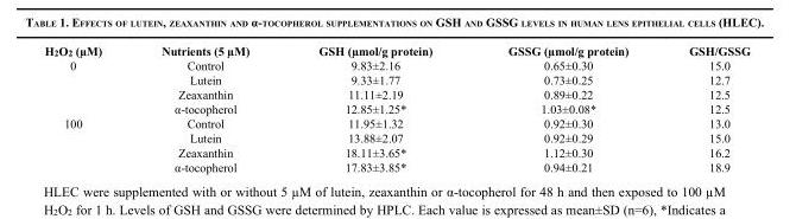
<table><thead><tr><td>H<sub>2</sub>O<sub>2</sub> (µM)</td><td>Nutrients (5 µM)</td><td>GSH (µmol/g protein)</td><td>GSSG (µmol/g protein)</td><td>GSH/GSSG</td></tr></thead><tbody><tr><td rowspan="4">0</td><td>Control</td><td>9.83±2.16</td><td>0.65±0.30</td><td>15.0</td></tr><tr><td>Lutein</td><td>9.33±1.77</td><td>0.73±0.25</td><td>12.7</td></tr><tr><td>Zeaxanthin</td><td>11.11±2.19</td><td>0.89±0.22</td><td>12.5</td></tr><tr><td>α-tocopherol</td><td>12.85±1.25*</td><td>1.03±0.08*</td><td>12.5</td></tr><tr><td rowspan="4">100</td><td>Control</td><td>11.95±1.32</td><td>0.92±0.30</td><td>13.0</td></tr><tr><td>Lutein</td><td>13.88±2.07</td><td>0.92±0.29</td><td>15.0</td></tr><tr><td>Zeaxanthin</td><td>18.11±3.65*</td><td>1.12±0.30</td><td>16.2</td></tr><tr><td>α-tocopherol</td><td>17.83±3.85*</td><td>0.94±0.21</td><td>18.9</td></tr></tbody></table>